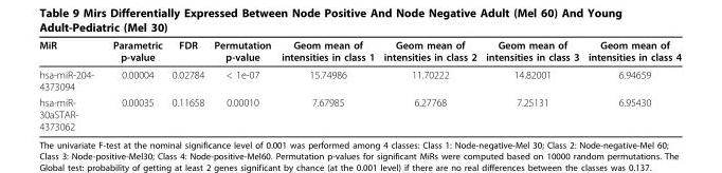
<table><thead><tr><td>MiR</td><td>Parametric p-value</td><td>FDR</td><td>Permutation p-value</td><td>Geom mean of intensities in class 1</td><td>Geom mean of intensities in class 2</td><td>Geom mean of intensities in class 3</td><td>Geom mean of intensities in class 4</td></tr></thead><tbody><tr><td>hsa-miR-204- 4373094</td><td>0.00004</td><td>0.02784</td><td>&lt; 1e-07</td><td>15.74986</td><td>11.70222</td><td>14.82001</td><td>6.94659</td></tr><tr><td>hsa-miR- 30aSTAR- 4373062</td><td>0.00035</td><td>0.11658</td><td>0.00010</td><td>7.67985</td><td>6.27768</td><td>7.25131</td><td>6.95430</td></tr></tbody></table>